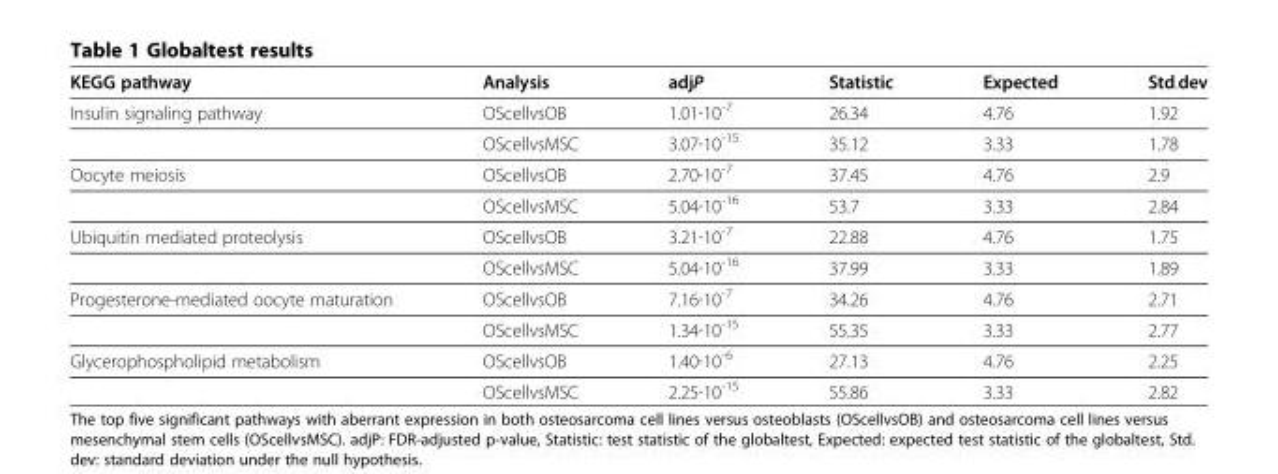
<table><thead><tr><td>KEGG pathway</td><td>Analysis</td><td>adjP</td><td>Statistic</td><td>Expected</td><td>Std.dev</td></tr></thead><tbody><tr><td rowspan="2">Insulin signaling pathway</td><td>OScellvsOB</td><td>1.01∙10<sup>-7</sup></td><td>26.34</td><td>4.76</td><td>1.92</td></tr><tr><td>OScellvsMSC</td><td>3.07∙10<sup>-15</sup></td><td>35.12</td><td>3.33</td><td>1.78</td></tr><tr><td rowspan="2">Oocyte meiosis</td><td>OScellvsOB</td><td>2.70∙10<sup>-7</sup></td><td>37.45</td><td>4.76</td><td>2.9</td></tr><tr><td>OScellvsMSC</td><td>5.04∙10<sup>-16</sup></td><td>53.7</td><td>3.33</td><td>2.84</td></tr><tr><td rowspan="2">Ubiquitin mediated proteolysis</td><td>OScellvsOB</td><td>3.21∙10<sup>-7</sup></td><td>22.88</td><td>4.76</td><td>1.75</td></tr><tr><td>OScellvsMSC</td><td>5.04∙10<sup>-16</sup></td><td>37.99</td><td>3.33</td><td>1.89</td></tr><tr><td rowspan="2">Progesterone-mediated oocyte maturation</td><td>OScellvsOB</td><td>7.16∙10<sup>-7</sup></td><td>34.26</td><td>4.76</td><td>2.71</td></tr><tr><td>OScellvsMSC</td><td>1.34∙10<sup>-15</sup></td><td>55.35</td><td>3.33</td><td>2.77</td></tr><tr><td rowspan="2">Glycerophospholipid metabolism</td><td>OScellvsOB</td><td>1.40∙10<sup>-6</sup></td><td>27.13</td><td>4.76</td><td>2.25</td></tr><tr><td>OScellvsMSC</td><td>2.25∙10<sup>-15</sup></td><td>55.86</td><td>3.33</td><td>2.82</td></tr></tbody></table>